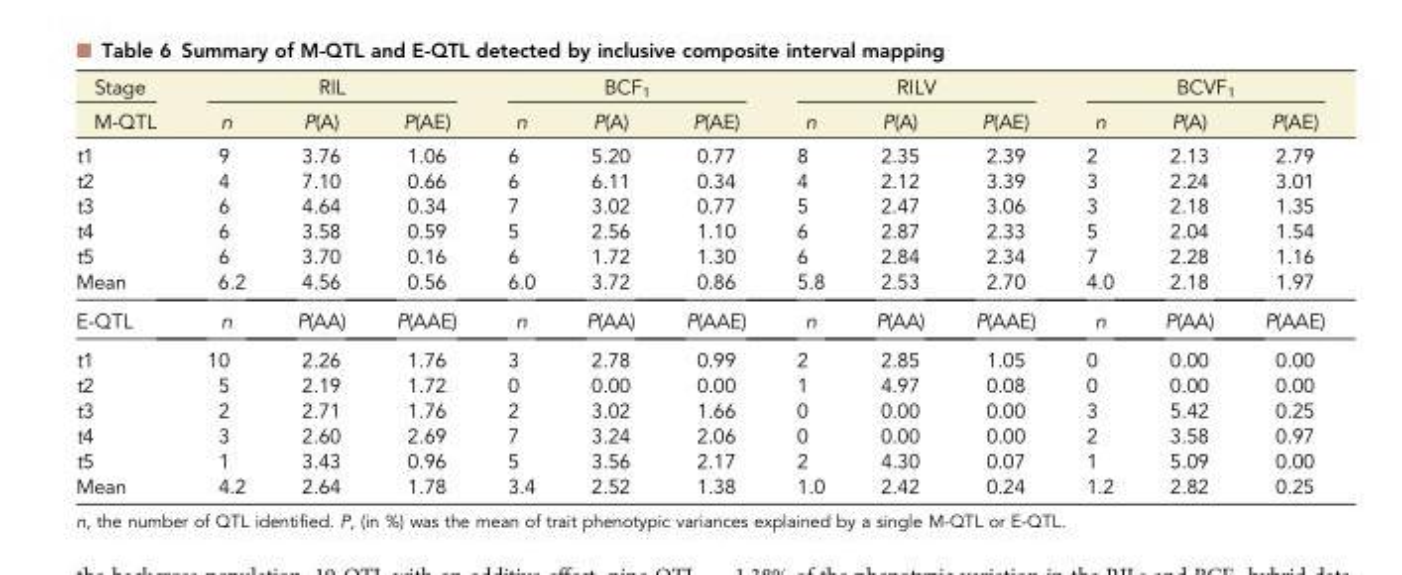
<table><thead><tr><td rowspan="2">Stage M-QTL</td><td colspan="3">RIL</td><td colspan="3">BCF<sub>1</sub></td><td colspan="3">RILV</td><td colspan="3">BCVF<sub>1</sub></td></tr><tr><td>n</td><td>P(A)</td><td>P(AE)</td><td>n</td><td>P(A)</td><td>P(AE)</td><td>n</td><td>P(A)</td><td>P(AE)</td><td>n</td><td>P(A)</td><td>P(AE)</td></tr></thead><tbody><tr><td>t1</td><td>9</td><td>3.76</td><td>1.06</td><td>6</td><td>5.20</td><td>0.77</td><td>8</td><td>2.35</td><td>2.39</td><td>2</td><td>2.13</td><td>2.79</td></tr><tr><td>t2</td><td>4</td><td>7.10</td><td>0.66</td><td>6</td><td>6.11</td><td>0.34</td><td>4</td><td>2.12</td><td>3.39</td><td>3</td><td>2.24</td><td>3.01</td></tr><tr><td>t3</td><td>6</td><td>4.64</td><td>0.34</td><td>7</td><td>3.02</td><td>0.77</td><td>5</td><td>2.47</td><td>3.06</td><td>3</td><td>2.18</td><td>1.35</td></tr><tr><td>t4</td><td>6</td><td>3.58</td><td>0.59</td><td>5</td><td>2.56</td><td>1.10</td><td>6</td><td>2.87</td><td>2.33</td><td>5</td><td>2.04</td><td>1.54</td></tr><tr><td>t5</td><td>6</td><td>3.70</td><td>0.16</td><td>6</td><td>1.72</td><td>1.30</td><td>6</td><td>2.84</td><td>2.34</td><td>7</td><td>2.28</td><td>1.16</td></tr><tr><td>Mean</td><td>6.2</td><td>4.56</td><td>0.56</td><td>6.0</td><td>3.72</td><td>0.86</td><td>5.8</td><td>2.53</td><td>2.70</td><td>4.0</td><td>2.18</td><td>1.97</td></tr><tr><td>E-QTL</td><td>n</td><td>P(AA)</td><td>P(AAE)</td><td>n</td><td>P(AA)</td><td>P(AAE)</td><td>n</td><td>P(AA)</td><td>P(AAE)</td><td>n</td><td>P(AA)</td><td>P(AAE)</td></tr><tr><td>t1</td><td>10</td><td>2.26</td><td>1.76</td><td>3</td><td>2.78</td><td>0.99</td><td>2</td><td>2.85</td><td>1.05</td><td>0</td><td>0.00</td><td>0.00</td></tr><tr><td>t2</td><td>5</td><td>2.19</td><td>1.72</td><td>0</td><td>0.00</td><td>0.00</td><td>1</td><td>4.97</td><td>0.08</td><td>0</td><td>0.00</td><td>0.00</td></tr><tr><td>t3</td><td>2</td><td>2.71</td><td>1.76</td><td>2</td><td>3.02</td><td>1.66</td><td>0</td><td>0.00</td><td>0.00</td><td>3</td><td>5.42</td><td>0.25</td></tr><tr><td>t4</td><td>3</td><td>2.60</td><td>2.69</td><td>7</td><td>3.24</td><td>2.06</td><td>0</td><td>0.00</td><td>0.00</td><td>2</td><td>3.58</td><td>0.97</td></tr><tr><td>t5</td><td>1</td><td>3.43</td><td>0.96</td><td>5</td><td>3.56</td><td>2.17</td><td>2</td><td>4.30</td><td>0.07</td><td>1</td><td>5.09</td><td>0.00</td></tr><tr><td>Mean</td><td>4.2</td><td>2.64</td><td>1.78</td><td>3.4</td><td>2.52</td><td>1.38</td><td>1.0</td><td>2.42</td><td>0.24</td><td>1.2</td><td>2.82</td><td>0.25</td></tr></tbody></table>